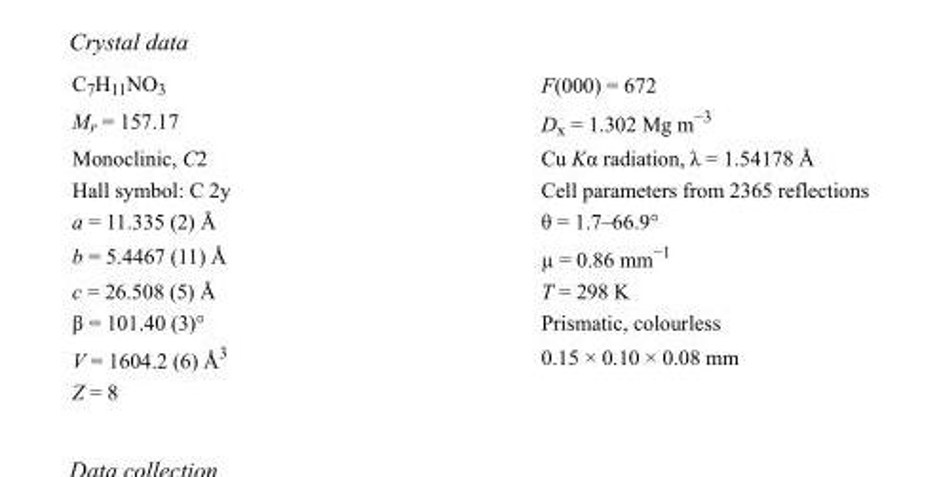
<table><tbody><tr><td>C<sub>7</sub>H<sub>11</sub>NO<sub>3</sub></td><td>F(000) = 672</td></tr><tr><td>M<sub>r</sub> = 157.17</td><td>D<sub>x</sub> = 1.302 Mg m<sup>−3</sup></td></tr><tr><td>Monoclinic, C2</td><td>Cu Kα radiation, λ = 1.54178 Å</td></tr><tr><td>Hall symbol: C 2y</td><td>Cell parameters from 2365 reflections</td></tr><tr><td>a = 11.335 (2) Å</td><td>θ = 1.7–66.9°</td></tr><tr><td>b = 5.4467 (11) Å</td><td>µ = 0.86 mm<sup>−1</sup></td></tr><tr><td>c = 26.508 (5) Å</td><td>T = 298 K</td></tr><tr><td>β = 101.40 (3)°</td><td>Prismatic, colourless</td></tr><tr><td>V = 1604.2 (6) Å<sup>3</sup></td><td>0.15 × 0.10 × 0.08 mm</td></tr><tr><td>Z = 8</td><td></td></tr></tbody></table>